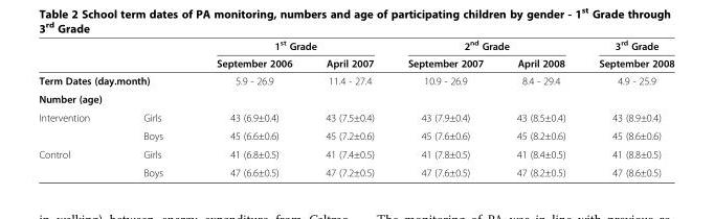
<table><thead><tr><td rowspan="2"></td><td rowspan="2"></td><td colspan="2">1<sup>st</sup> Grade</td><td colspan="2">2<sup>nd</sup> Grade</td><td rowspan="2">3<sup>rd</sup> Grade September 2008</td></tr><tr><td>September 2006</td><td>April 2007</td><td>September 2007</td><td>April 2008</td></tr></thead><tbody><tr><td colspan="2">Term Dates (day.month)</td><td>5.9 - 26.9</td><td>11.4 - 27.4</td><td>10.9 - 26.9</td><td>8.4 - 29.4</td><td>4.9 - 25.9</td></tr><tr><td colspan="7">Number (age)</td></tr><tr><td rowspan="2">Intervention</td><td>Girls</td><td>43 (6.9±0.4)</td><td>43 (7.5±0.4)</td><td>43 (7.9±0.4)</td><td>43 (8.5±0.4)</td><td>43 (8.9±0.4)</td></tr><tr><td>Boys</td><td>45 (6.6±0.6)</td><td>45 (7.2±0.6)</td><td>45 (7.6±0.6)</td><td>45 (8.2±0.6)</td><td>45 (8.6±0.6)</td></tr><tr><td rowspan="2">Control</td><td>Girls</td><td>41 (6.8±0.5)</td><td>41 (7.4±0.5)</td><td>41 (7.8±0.5)</td><td>41 (8.4±0.5)</td><td>41 (8.8±0.5)</td></tr><tr><td>Boys</td><td>47 (6.6±0.5)</td><td>47 (7.2±0.5)</td><td>47 (7.6±0.5)</td><td>47 (8.2±0.5)</td><td>47 (8.6±0.5)</td></tr></tbody></table>